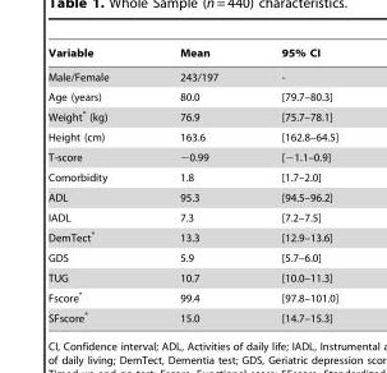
<table><thead><tr><td>Variable</td><td>Mean</td><td>95% CI</td></tr></thead><tbody><tr><td>Male/Female</td><td>243/197</td><td>-</td></tr><tr><td>Age (years)</td><td>80.0</td><td>[79.7–80.3]</td></tr><tr><td>Weight* (kg)</td><td>76.9</td><td>[75.7–78.1]</td></tr><tr><td>Height (cm)</td><td>163.6</td><td>[162.8–64.5]</td></tr><tr><td>T-score</td><td>−0.99</td><td>[−1.1–0.9]</td></tr><tr><td>Comorbidity</td><td>1.8</td><td>[1.7–2.0]</td></tr><tr><td>ADL</td><td>95.3</td><td>[94.5–96.2]</td></tr><tr><td>IADL</td><td>7.3</td><td>[7.2–7.5]</td></tr><tr><td>DemTect*</td><td>13.3</td><td>[12.9–13.6]</td></tr><tr><td>GDS</td><td>5.9</td><td>[5.7–6.0]</td></tr><tr><td>TUG</td><td>10.7</td><td>[10.0–11.3]</td></tr><tr><td>Fscore*</td><td>99.4</td><td>[97.8–101.0]</td></tr><tr><td>SFscore*</td><td>15.0</td><td>[14.7–15.3]</td></tr></tbody></table>